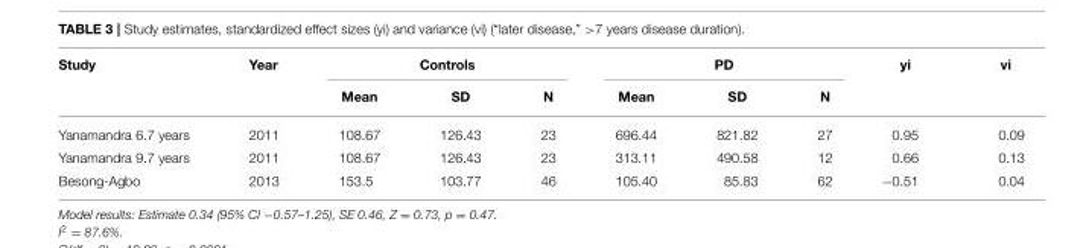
<table><thead><tr><td rowspan="2">Study</td><td rowspan="2">Year</td><td colspan="3">Controls</td><td colspan="3">PD</td><td rowspan="2">yi</td><td rowspan="2">vi</td></tr><tr><td>Mean</td><td>SD</td><td>N</td><td>Mean</td><td>SD</td><td>N</td></tr></thead><tbody><tr><td>Yanamandra 6.7 years</td><td>2011</td><td>108.67</td><td>126.43</td><td>23</td><td>696.44</td><td>821.82</td><td>27</td><td>0.95</td><td>0.09</td></tr><tr><td>Yanamandra 9.7 years</td><td>2011</td><td>108.67</td><td>126.43</td><td>23</td><td>313.11</td><td>490.58</td><td>12</td><td>0.66</td><td>0.13</td></tr><tr><td>Besong-Agbo</td><td>2013</td><td>153.5</td><td>103.77</td><td>46</td><td>105.40</td><td>85.83</td><td>62</td><td>−0.51</td><td>0.04</td></tr></tbody></table>